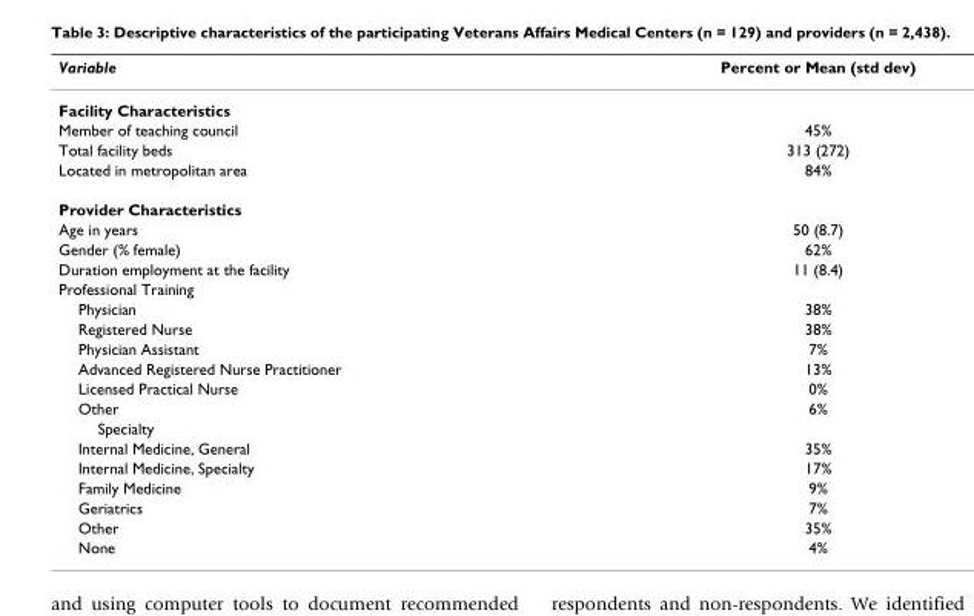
<table><thead><tr><td>Variable</td><td>Percent or Mean (std dev)</td></tr></thead><tbody><tr><td colspan="2">Facility Characteristics</td></tr><tr><td>Member of teaching council</td><td>45%</td></tr><tr><td>Total facility beds</td><td>313 (272)</td></tr><tr><td>Located in metropolitan area</td><td>84%</td></tr><tr><td colspan="2">Provider Characteristics</td></tr><tr><td>Age in years</td><td>50 (8.7)</td></tr><tr><td>Gender (% female)</td><td>62%</td></tr><tr><td>Duration employment at the facility</td><td>11 (8.4)</td></tr><tr><td colspan="2">Professional Training</td></tr><tr><td>Physician</td><td>38%</td></tr><tr><td>Registered Nurse</td><td>38%</td></tr><tr><td>Physician Assistant</td><td>7%</td></tr><tr><td>Advanced Registered Nurse Practitioner</td><td>13%</td></tr><tr><td>Licensed Practical Nurse</td><td>0%</td></tr><tr><td>Other</td><td>6%</td></tr><tr><td colspan="2">Specialty</td></tr><tr><td>Internal Medicine, General</td><td>35%</td></tr><tr><td>Internal Medicine, Specialty</td><td>17%</td></tr><tr><td>Family Medicine</td><td>9%</td></tr><tr><td>Geriatrics</td><td>7%</td></tr><tr><td>Other</td><td>35%</td></tr><tr><td>None</td><td>4%</td></tr></tbody></table>